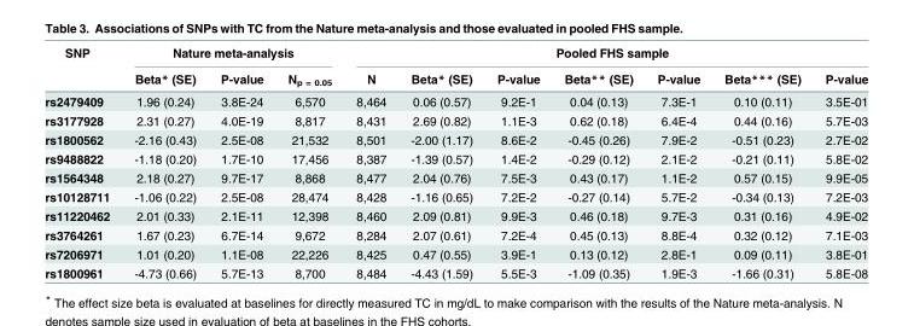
<table><thead><tr><td rowspan="2">SNP</td><td colspan="3">Nature meta-analysis</td><td colspan="7">Pooled FHS sample</td></tr><tr><td>Beta* (SE)</td><td>P-value</td><td>N<sub>p = 0.05</sub></td><td>N</td><td>Beta* (SE)</td><td>P-value</td><td>Beta** (SE)</td><td>P-value</td><td>Beta*** (SE)</td><td>P-value</td></tr></thead><tbody><tr><td>rs2479409</td><td>1.96 (0.24)</td><td>3.8E-24</td><td>6,570</td><td>8,464</td><td>0.06 (0.57)</td><td>9.2E-1</td><td>0.04 (0.13)</td><td>7.3E-1</td><td>0.10 (0.11)</td><td>3.5E-01</td></tr><tr><td>rs3177928</td><td>2.31 (0.27)</td><td>4.0E-19</td><td>8,817</td><td>8,431</td><td>2.69 (0.82)</td><td>1.1E-3</td><td>0.62 (0.18)</td><td>6.4E-4</td><td>0.44 (0.16)</td><td>5.7E-03</td></tr><tr><td>rs1800562</td><td>-2.16 (0.43)</td><td>2.5E-08</td><td>21,532</td><td>8,501</td><td>-2.00 (1.17)</td><td>8.6E-2</td><td>-0.45 (0.26)</td><td>7.9E-2</td><td>-0.51 (0.23)</td><td>2.7E-02</td></tr><tr><td>rs9488822</td><td>-1.18 (0.20)</td><td>1.7E-10</td><td>17,456</td><td>8,387</td><td>-1.39 (0.57)</td><td>1.4E-2</td><td>-0.29 (0.12)</td><td>2.1E-2</td><td>-0.21 (0.11)</td><td>5.8E-02</td></tr><tr><td>rs1564348</td><td>2.18 (0.27)</td><td>9.7E-17</td><td>8,868</td><td>8,477</td><td>2.04 (0.76)</td><td>7.5E-3</td><td>0.43 (0.17)</td><td>1.1E-2</td><td>0.57 (0.15)</td><td>9.9E-05</td></tr><tr><td>rs10128711</td><td>-1.06 (0.22)</td><td>2.5E-08</td><td>28,474</td><td>8,428</td><td>-1.16 (0.65)</td><td>7.2E-2</td><td>-0.27 (0.14)</td><td>5.7E-2</td><td>-0.34 (0.13)</td><td>7.2E-03</td></tr><tr><td>rs11220462</td><td>2.01 (0.33)</td><td>2.1E-11</td><td>12,398</td><td>8,460</td><td>2.09 (0.81)</td><td>9.9E-3</td><td>0.46 (0.18)</td><td>9.7E-3</td><td>0.31 (0.16)</td><td>4.9E-02</td></tr><tr><td>rs3764261</td><td>1.67 (0.23)</td><td>6.7E-14</td><td>9,672</td><td>8,284</td><td>2.07 (0.61)</td><td>7.2E-4</td><td>0.45 (0.13)</td><td>8.8E-4</td><td>0.32 (0.12)</td><td>7.1E-03</td></tr><tr><td>rs7206971</td><td>1.01 (0.20)</td><td>1.1E-08</td><td>22,226</td><td>8,425</td><td>0.47 (0.55)</td><td>3.9E-1</td><td>0.13 (0.12)</td><td>2.8E-1</td><td>0.09 (0.11)</td><td>3.8E-01</td></tr><tr><td>rs1800961</td><td>-4.73 (0.66)</td><td>5.7E-13</td><td>8,700</td><td>8,484</td><td>-4.43 (1.59)</td><td>5.5E-3</td><td>-1.09 (0.35)</td><td>1.9E-3</td><td>-1.66 (0.31)</td><td>5.8E-08</td></tr></tbody></table>